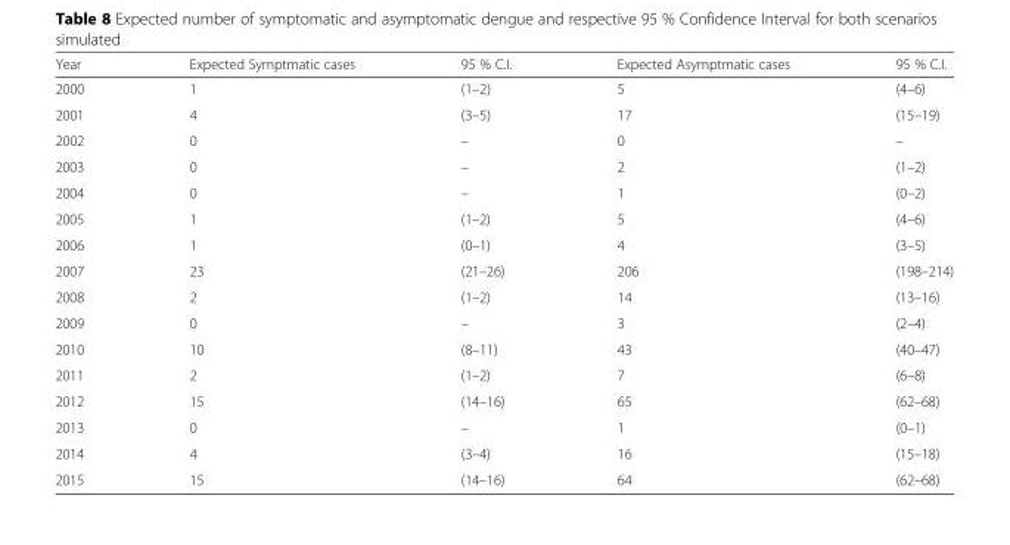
<table><thead><tr><td>Year</td><td>Expected Symptmatic cases</td><td>95 % C.I.</td><td>Expected Asymptmatic cases</td><td>95 % C.I.</td></tr></thead><tbody><tr><td>2000</td><td>1</td><td>(1–2)</td><td>5</td><td>(4–6)</td></tr><tr><td>2001</td><td>4</td><td>(3–5)</td><td>17</td><td>(15–19)</td></tr><tr><td>2002</td><td>0</td><td>–</td><td>0</td><td>–</td></tr><tr><td>2003</td><td>0</td><td>–</td><td>2</td><td>(1–2)</td></tr><tr><td>2004</td><td>0</td><td>–</td><td>1</td><td>(0–2)</td></tr><tr><td>2005</td><td>1</td><td>(1–2)</td><td>5</td><td>(4–6)</td></tr><tr><td>2006</td><td>1</td><td>(0–1)</td><td>4</td><td>(3–5)</td></tr><tr><td>2007</td><td>23</td><td>(21–26)</td><td>206</td><td>(198–214)</td></tr><tr><td>2008</td><td>2</td><td>(1–2)</td><td>14</td><td>(13–16)</td></tr><tr><td>2009</td><td>0</td><td>–</td><td>3</td><td>(2–4)</td></tr><tr><td>2010</td><td>10</td><td>(8–11)</td><td>43</td><td>(40–47)</td></tr><tr><td>2011</td><td>2</td><td>(1–2)</td><td>7</td><td>(6–8)</td></tr><tr><td>2012</td><td>15</td><td>(14–16)</td><td>65</td><td>(62–68)</td></tr><tr><td>2013</td><td>0</td><td>–</td><td>1</td><td>(0–1)</td></tr><tr><td>2014</td><td>4</td><td>(3–4)</td><td>16</td><td>(15–18)</td></tr><tr><td>2015</td><td>15</td><td>(14–16)</td><td>64</td><td>(62–68)</td></tr></tbody></table>